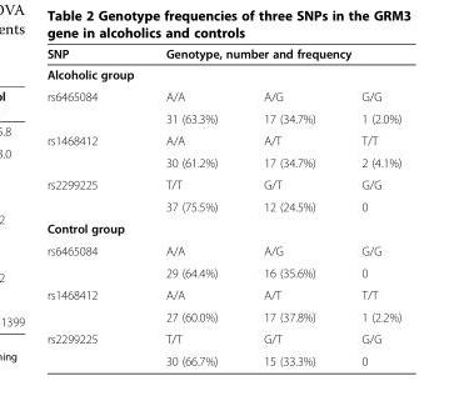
<table><thead><tr><td rowspan="3">SNP Alcoholic group rs6465084</td><td rowspan="2" colspan="3">Genotype, number and frequency</td></tr><tr></tr><tr><td>A/A</td><td>A/G</td><td>G/G</td></tr></thead><tbody><tr><td></td><td>31 (63.3%)</td><td>17 (34.7%)</td><td>1 (2.0%)</td></tr><tr><td rowspan="2">rs1468412</td><td>A/A</td><td>A/T</td><td>T/T</td></tr><tr><td>30 (61.2%)</td><td>17 (34.7%)</td><td>2 (4.1%)</td></tr><tr><td rowspan="2">rs2299225</td><td>T/T</td><td>G/T</td><td>G/G</td></tr><tr><td>37 (75.5%)</td><td>12 (24.5%)</td><td>0</td></tr><tr><td colspan="4">Control group</td></tr><tr><td rowspan="2">rs6465084</td><td>A/A</td><td>A/G</td><td>G/G</td></tr><tr><td>29 (64.4%)</td><td>16 (35.6%)</td><td>0</td></tr><tr><td rowspan="2">rs1468412</td><td>A/A</td><td>A/T</td><td>T/T</td></tr><tr><td>27 (60.0%)</td><td>17 (37.8%)</td><td>1 (2.2%)</td></tr><tr><td rowspan="2">rs2299225</td><td>T/T</td><td>G/T</td><td>G/G</td></tr><tr><td>30 (66.7%)</td><td>15 (33.3%)</td><td>0</td></tr></tbody></table>